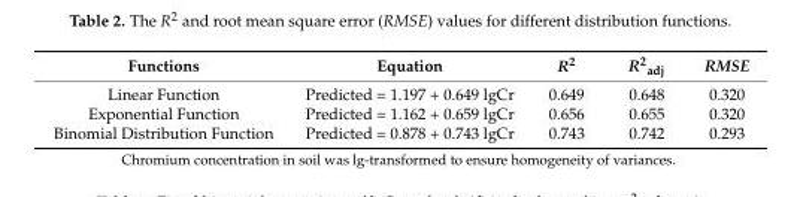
<table><thead><tr><td>Functions</td><td>Equation</td><td>R<sup>2</sup></td><td>R<sup>2</sup><sub>adj</sub></td><td>RMSE</td></tr></thead><tbody><tr><td>Linear Function</td><td>Predicted = 1.197 + 0.649 lgCr</td><td>0.649</td><td>0.648</td><td>0.320</td></tr><tr><td>Exponential Function</td><td>Predicted = 1.162 + 0.659 lgCr</td><td>0.656</td><td>0.655</td><td>0.320</td></tr><tr><td>Binomial Distribution Function</td><td>Predicted = 0.878 + 0.743 lgCr</td><td>0.743</td><td>0.742</td><td>0.293</td></tr></tbody></table>